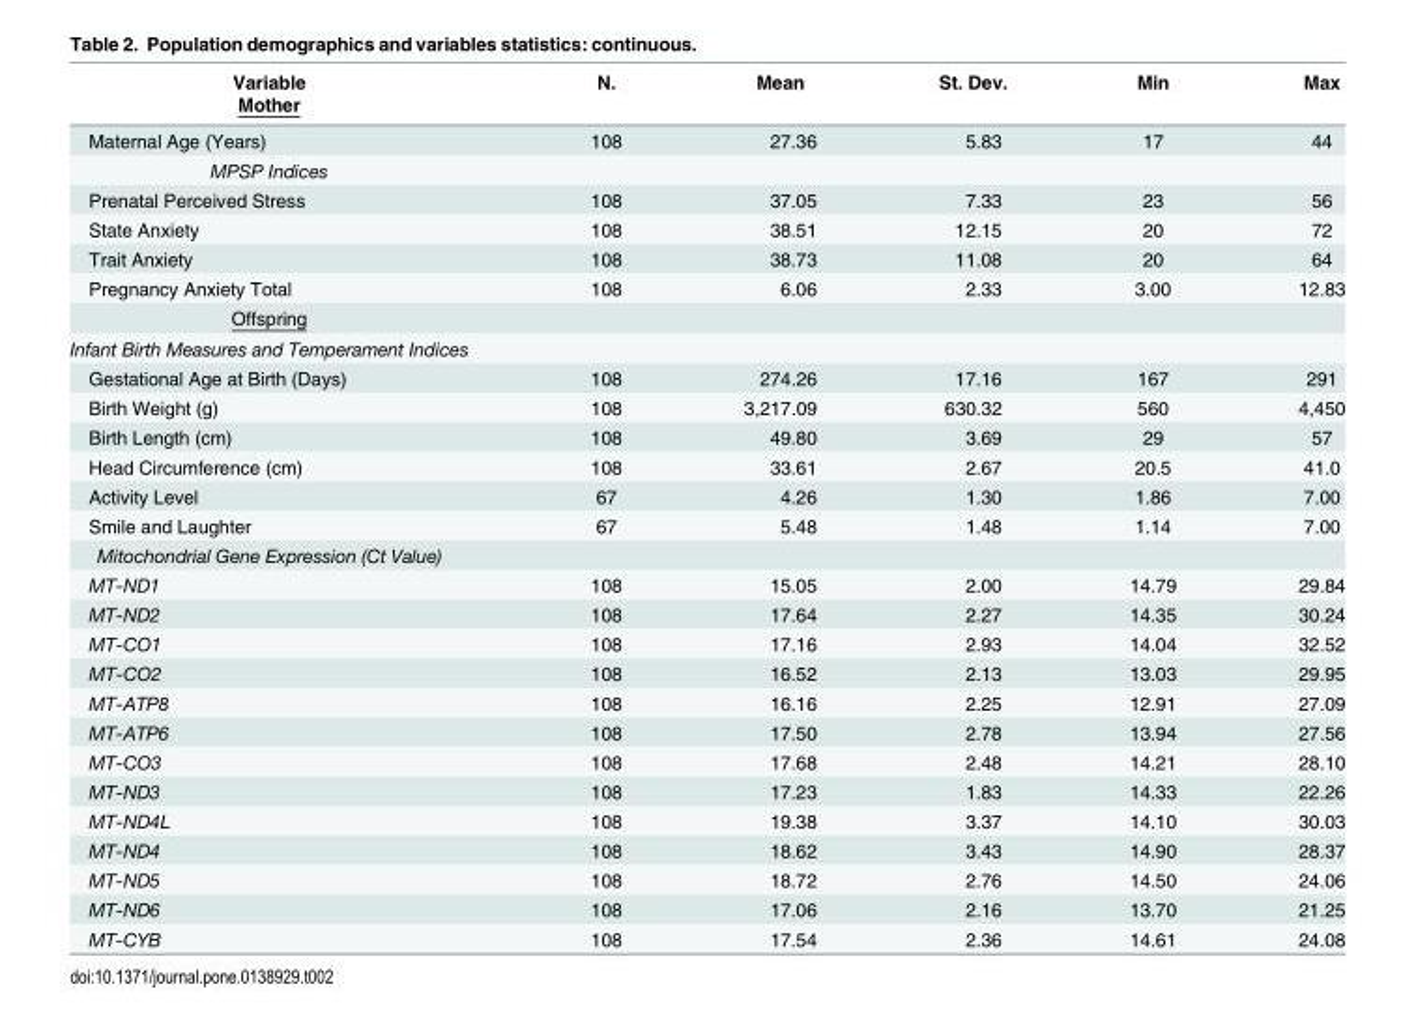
<table><thead><tr><td rowspan="2">Variable Mother</td><td rowspan="2">N.</td><td rowspan="2">Mean</td><td rowspan="2">St. Dev.</td><td rowspan="2">Min</td><td rowspan="2">Max</td></tr><tr></tr></thead><tbody><tr><td>Maternal Age (Years)</td><td>108</td><td>27.36</td><td>5.83</td><td>17</td><td>44</td></tr><tr><td colspan="6">MPSP Indices</td></tr><tr><td>Prenatal Perceived Stress</td><td>108</td><td>37.05</td><td>7.33</td><td>23</td><td>56</td></tr><tr><td>State Anxiety</td><td>108</td><td>38.51</td><td>12.15</td><td>20</td><td>72</td></tr><tr><td>Trait Anxiety</td><td>108</td><td>38.73</td><td>11.08</td><td>20</td><td>64</td></tr><tr><td>Pregnancy Anxiety Total</td><td>108</td><td>6.06</td><td>2.33</td><td>3.00</td><td>12.83</td></tr><tr><td colspan="6">Offspring</td></tr><tr><td colspan="6">Infant Birth Measures and Temperament Indices</td></tr><tr><td>Gestational Age at Birth (Days)</td><td>108</td><td>274.26</td><td>17.16</td><td>167</td><td>291</td></tr><tr><td>Birth Weight (g)</td><td>108</td><td>3,217.09</td><td>630.32</td><td>560</td><td>4,450</td></tr><tr><td>Birth Length (cm)</td><td>108</td><td>49.80</td><td>3.69</td><td>29</td><td>57</td></tr><tr><td>Head Circumference (cm)</td><td>108</td><td>33.61</td><td>2.67</td><td>20.5</td><td>41.0</td></tr><tr><td>Activity Level</td><td>67</td><td>4.26</td><td>1.30</td><td>1.86</td><td>7.00</td></tr><tr><td>Smile and Laughter</td><td>67</td><td>5.48</td><td>1.48</td><td>1.14</td><td>7.00</td></tr><tr><td colspan="6">Mitochondrial Gene Expression (Ct Value)</td></tr><tr><td>MT-ND1</td><td>108</td><td>15.05</td><td>2.00</td><td>14.79</td><td>29.84</td></tr><tr><td>MT-ND2</td><td>108</td><td>17.64</td><td>2.27</td><td>14.35</td><td>30.24</td></tr><tr><td>MT-CO1</td><td>108</td><td>17.16</td><td>2.93</td><td>14.04</td><td>32.52</td></tr><tr><td>MT-CO2</td><td>108</td><td>16.52</td><td>2.13</td><td>13.03</td><td>29.95</td></tr><tr><td>MT-ATP8</td><td>108</td><td>16.16</td><td>2.25</td><td>12.91</td><td>27.09</td></tr><tr><td>MT-ATP6</td><td>108</td><td>17.50</td><td>2.78</td><td>13.94</td><td>27.56</td></tr><tr><td>MT-CO3</td><td>108</td><td>17.68</td><td>2.48</td><td>14.21</td><td>28.10</td></tr><tr><td>MT-ND3</td><td>108</td><td>17.23</td><td>1.83</td><td>14.33</td><td>22.26</td></tr><tr><td>MT-ND4L</td><td>108</td><td>19.38</td><td>3.37</td><td>14.10</td><td>30.03</td></tr><tr><td>MT-ND4</td><td>108</td><td>18.62</td><td>3.43</td><td>14.90</td><td>28.37</td></tr><tr><td>MT-ND5</td><td>108</td><td>18.72</td><td>2.76</td><td>14.50</td><td>24.06</td></tr><tr><td>MT-ND6</td><td>108</td><td>17.06</td><td>2.16</td><td>13.70</td><td>21.25</td></tr><tr><td>MT-CYB</td><td>108</td><td>17.54</td><td>2.36</td><td>14.61</td><td>24.08</td></tr></tbody></table>